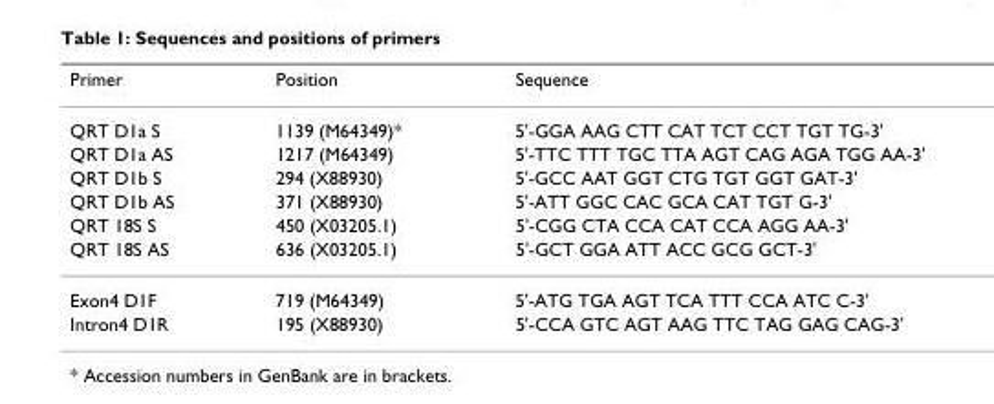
<table><thead><tr><td>Primer</td><td>Position</td><td>Sequence</td></tr></thead><tbody><tr><td>QRT D1a S</td><td>1139 (M64349)*</td><td>5&#x27;-GGA AAG CTT CAT TCT CCT TGT TG-3&#x27;</td></tr><tr><td>QRT D1a AS</td><td>1217 (M64349)</td><td>5&#x27;-TTC TTT TGC TTA AGT CAG AGA TGG AA-3&#x27;</td></tr><tr><td>QRT D1b S</td><td>294 (X88930)</td><td>5&#x27;-GCC AAT GGT CTG TGT GGT GAT-3&#x27;</td></tr><tr><td>QRT D1b AS</td><td>371 (X88930)</td><td>5&#x27;-ATT GGC CAC GCA CAT TGT G-3&#x27;</td></tr><tr><td>QRT 18S S</td><td>450 (X03205.1)</td><td>5&#x27;-CGG CTA CCA CAT CCA AGG AA-3&#x27;</td></tr><tr><td>QRT 18S AS</td><td>636 (X03205.1)</td><td>5&#x27;-GCT GGA ATT ACC GCG GCT-3&#x27;</td></tr><tr><td>Exon4 D1F</td><td>719 (M64349)</td><td>5&#x27;-ATG TGA AGT TCA TTT CCA ATC C-3&#x27;</td></tr><tr><td>Intron4 D1R</td><td>195 (X88930)</td><td>5&#x27;-CCA GTC AGT AAG TTC TAG GAG CAG-3&#x27;</td></tr></tbody></table>